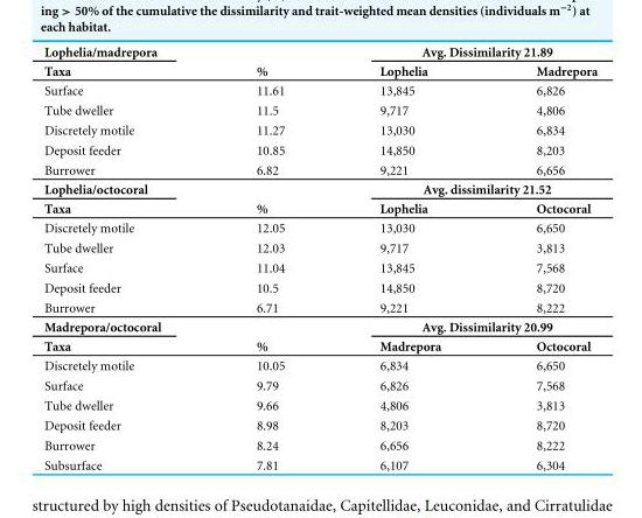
<table><tbody><tr><td>Lophelia/madrepora</td><td></td><td colspan="2">Avg. Dissimilarity 21.89</td></tr><tr><td>Taxa</td><td>%</td><td>Lophelia</td><td>Madrepora</td></tr><tr><td>Surface</td><td>11.61</td><td>13,845</td><td>6,826</td></tr><tr><td>Tube dweller</td><td>11.5</td><td>9,717</td><td>4,806</td></tr><tr><td>Discretely motile</td><td>11.27</td><td>13,030</td><td>6,834</td></tr><tr><td>Deposit feeder</td><td>10.85</td><td>14,850</td><td>8,203</td></tr><tr><td>Burrower</td><td>6.82</td><td>9,221</td><td>6,656</td></tr><tr><td>Lophelia/octocoral</td><td></td><td colspan="2">Avg. dissimilarity 21.52</td></tr><tr><td>Taxa</td><td>%</td><td>Lophelia</td><td>Octocoral</td></tr><tr><td>Discretely motile</td><td>12.05</td><td>13,030</td><td>6,650</td></tr><tr><td>Tube dweller</td><td>12.03</td><td>9,717</td><td>3,813</td></tr><tr><td>Surface</td><td>11.04</td><td>13,845</td><td>7,568</td></tr><tr><td>Deposit feeder</td><td>10.5</td><td>14,850</td><td>8,720</td></tr><tr><td>Burrower</td><td>6.71</td><td>9,221</td><td>8,222</td></tr><tr><td>Madrepora/octocoral</td><td></td><td colspan="2">Avg. Dissimilarity 20.99</td></tr><tr><td>Taxa</td><td>%</td><td>Madrepora</td><td>Octocoral</td></tr><tr><td>Discretely motile</td><td>10.05</td><td>6,834</td><td>6,650</td></tr><tr><td>Surface</td><td>9.79</td><td>6,826</td><td>7,568</td></tr><tr><td>Tube dweller</td><td>9.66</td><td>4,806</td><td>3,813</td></tr><tr><td>Deposit feeder</td><td>8.98</td><td>8,203</td><td>8,720</td></tr><tr><td>Burrower</td><td>8.24</td><td>6,656</td><td>8,222</td></tr><tr><td>Subsurface</td><td>7.81</td><td>6,107</td><td>6,304</td></tr></tbody></table>